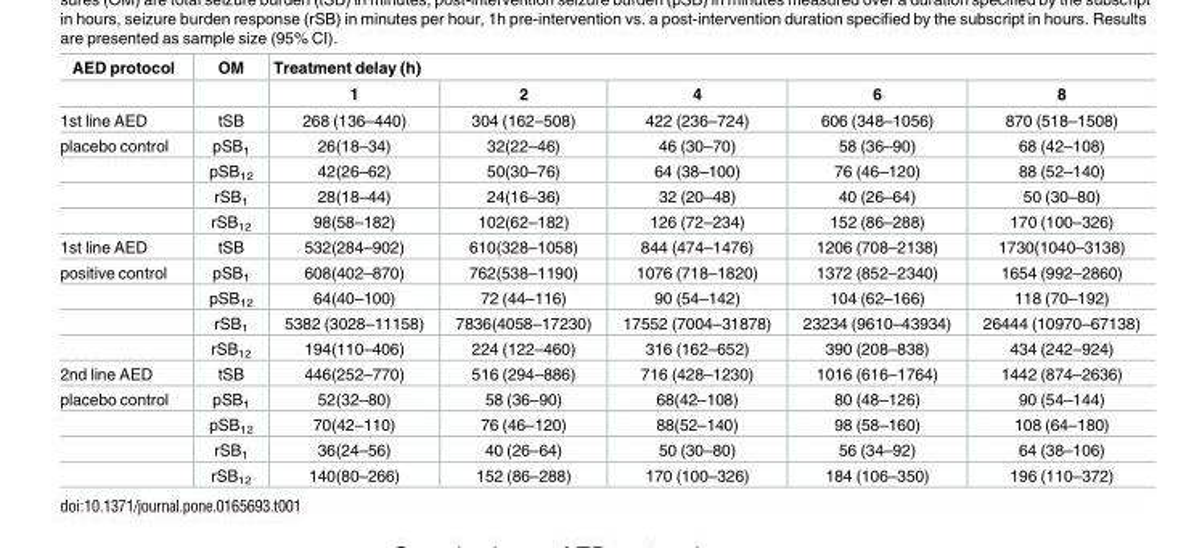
<table><thead><tr><td rowspan="2">AED protocol</td><td rowspan="2">OM</td><td colspan="5">Treatment delay (h)</td></tr><tr><td>1</td><td>2</td><td>4</td><td>6</td><td>8</td></tr></thead><tbody><tr><td>1st line AED</td><td>tSB</td><td>268 (136–440)</td><td>304 (162–508)</td><td>422 (236–724)</td><td>606 (348–1056)</td><td>870 (518–1508)</td></tr><tr><td rowspan="4">placebo control</td><td>pSB<sub>1</sub></td><td>26(18–34)</td><td>32(22–46)</td><td>46 (30–70)</td><td>58 (36–90)</td><td>68 (42–108)</td></tr><tr><td>pSB<sub>12</sub></td><td>42(26–62)</td><td>50(30–76)</td><td>64 (38–100)</td><td>76 (46–120)</td><td>88 (52–140)</td></tr><tr><td>rSB<sub>1</sub></td><td>28(18–44)</td><td>24(16–36)</td><td>32 (20–48)</td><td>40 (26–64)</td><td>50 (30–80)</td></tr><tr><td>rSB<sub>12</sub></td><td>98(58–182)</td><td>102(62–182)</td><td>126 (72–234)</td><td>152 (86–288)</td><td>170 (100–326)</td></tr><tr><td>1st line AED</td><td>tSB</td><td>532(284–902)</td><td>610(328–1058)</td><td>844 (474–1476)</td><td>1206 (708–2138)</td><td>1730(1040–3138)</td></tr><tr><td rowspan="4">positive control</td><td>pSB<sub>1</sub></td><td>608(402–870)</td><td>762(538–1190)</td><td>1076 (718–1820)</td><td>1372 (852–2340)</td><td>1654 (992–2860)</td></tr><tr><td>pSB<sub>12</sub></td><td>64(40–100)</td><td>72 (44–116)</td><td>90 (54–142)</td><td>104 (62–166)</td><td>118 (70–192)</td></tr><tr><td>rSB<sub>1</sub></td><td>5382 (3028–11158)</td><td>7836(4058–17230)</td><td>17552 (7004–31878)</td><td>23234 (9610–43934)</td><td>26444 (10970–67138)</td></tr><tr><td>rSB<sub>12</sub></td><td>194(110–406)</td><td>224 (122–460)</td><td>316 (162–652)</td><td>390 (208–838)</td><td>434 (242–924)</td></tr><tr><td>2nd line AED</td><td>tSB</td><td>446(252–770)</td><td>516 (294–886)</td><td>716 (428–1230)</td><td>1016 (616–1764)</td><td>1442 (874–2636)</td></tr><tr><td rowspan="4">placebo control</td><td>pSB<sub>1</sub></td><td>52(32–80)</td><td>58 (36–90)</td><td>68(42–108)</td><td>80 (48–126)</td><td>90 (54–144)</td></tr><tr><td>pSB<sub>12</sub></td><td>70(42–110)</td><td>76 (46–120)</td><td>88(52–140)</td><td>98 (58–160)</td><td>108 (64–180)</td></tr><tr><td>rSB<sub>1</sub></td><td>36(24–56)</td><td>40 (26–64)</td><td>50 (30–80)</td><td>56 (34–92)</td><td>64 (38–106)</td></tr><tr><td>rSB<sub>12</sub></td><td>140(80–266)</td><td>152 (86–288)</td><td>170 (100–326)</td><td>184 (106–350)</td><td>196 (110–372)</td></tr></tbody></table>